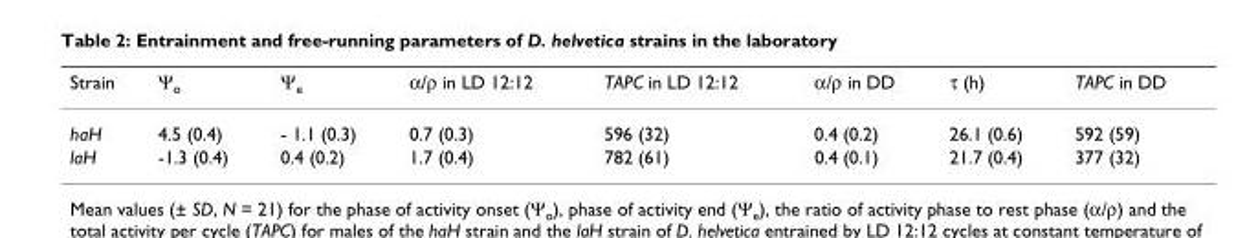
<table><thead><tr><td>Strain</td><td>Ψ<sub>o</sub></td><td>Ψ<sub>e</sub></td><td>α/ρ in LD 12:12</td><td>TAPC in LD 12:12</td><td>α/ρ in DD</td><td>τ (h)</td><td>TAPC in DD</td></tr></thead><tbody><tr><td>haH</td><td>4.5 (0.4)</td><td>- 1.1 (0.3)</td><td>0.7 (0.3)</td><td>596 (32)</td><td>0.4 (0.2)</td><td>26.1 (0.6)</td><td>592 (59)</td></tr><tr><td>laH</td><td>-1.3 (0.4)</td><td>0.4 (0.2)</td><td>1.7 (0.4)</td><td>782 (61)</td><td>0.4 (0.1)</td><td>21.7 (0.4)</td><td>377 (32)</td></tr></tbody></table>